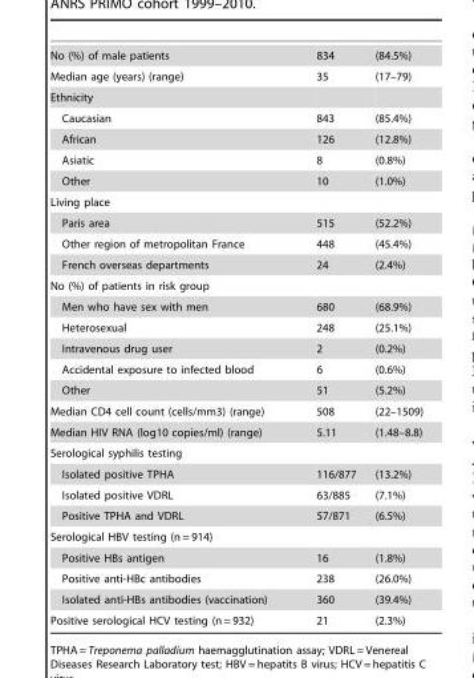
<table><tbody><tr><td>No (%) of male patients</td><td>834</td><td>(84.5%)</td></tr><tr><td>Median age (years) (range)</td><td>35</td><td>(17–79)</td></tr><tr><td colspan="3">Ethnicity</td></tr><tr><td>Caucasian</td><td>843</td><td>(85.4%)</td></tr><tr><td>African</td><td>126</td><td>(12.8%)</td></tr><tr><td>Asiatic</td><td>8</td><td>(0.8%)</td></tr><tr><td>Other</td><td>10</td><td>(1.0%)</td></tr><tr><td colspan="3">Living place</td></tr><tr><td>Paris area</td><td>515</td><td>(52.2%)</td></tr><tr><td>Other region of metropolitan France</td><td>448</td><td>(45.4%)</td></tr><tr><td>French overseas departments</td><td>24</td><td>(2.4%)</td></tr><tr><td colspan="3">No (%) of patients in risk group</td></tr><tr><td>Men who have sex with men</td><td>680</td><td>(68.9%)</td></tr><tr><td>Heterosexual</td><td>248</td><td>(25.1%)</td></tr><tr><td>Intravenous drug user</td><td>2</td><td>(0.2%)</td></tr><tr><td>Accidental exposure to infected blood</td><td>6</td><td>(0.6%)</td></tr><tr><td>Other</td><td>51</td><td>(5.2%)</td></tr><tr><td>Median CD4 cell count (cells/mm3) (range)</td><td>508</td><td>(22–1509)</td></tr><tr><td>Median HIV RNA (log10 copies/ml) (range)</td><td>5.11</td><td>(1.48–8.8)</td></tr><tr><td colspan="3">Serological syphilis testing</td></tr><tr><td>Isolated positive TPHA</td><td>116/877</td><td>(13.2%)</td></tr><tr><td>Isolated positive VDRL</td><td>63/885</td><td>(7.1%)</td></tr><tr><td>Positive TPHA and VDRL</td><td>57/871</td><td>(6.5%)</td></tr><tr><td colspan="3">Serological HBV testing (n = 914)</td></tr><tr><td>Positive HBs antigen</td><td>16</td><td>(1.8%)</td></tr><tr><td>Positive anti-HBc antibodies</td><td>238</td><td>(26.0%)</td></tr><tr><td>Isolated anti-HBs antibodies (vaccination)</td><td>360</td><td>(39.4%)</td></tr><tr><td>Positive serological HCV testing (n = 932)</td><td>21</td><td>(2.3%)</td></tr></tbody></table>